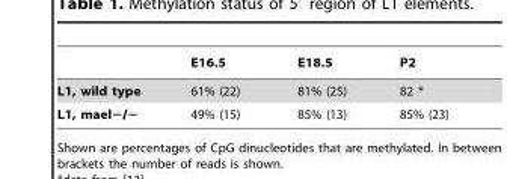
<table><thead><tr><td></td><td>E16.5</td><td>E18.5</td><td>P2</td></tr></thead><tbody><tr><td>L1, wild type</td><td>61% (22)</td><td>81% (25)</td><td>82 *</td></tr><tr><td>L1, mael−/−</td><td>49% (15)</td><td>85% (13)</td><td>85% (23)</td></tr></tbody></table>